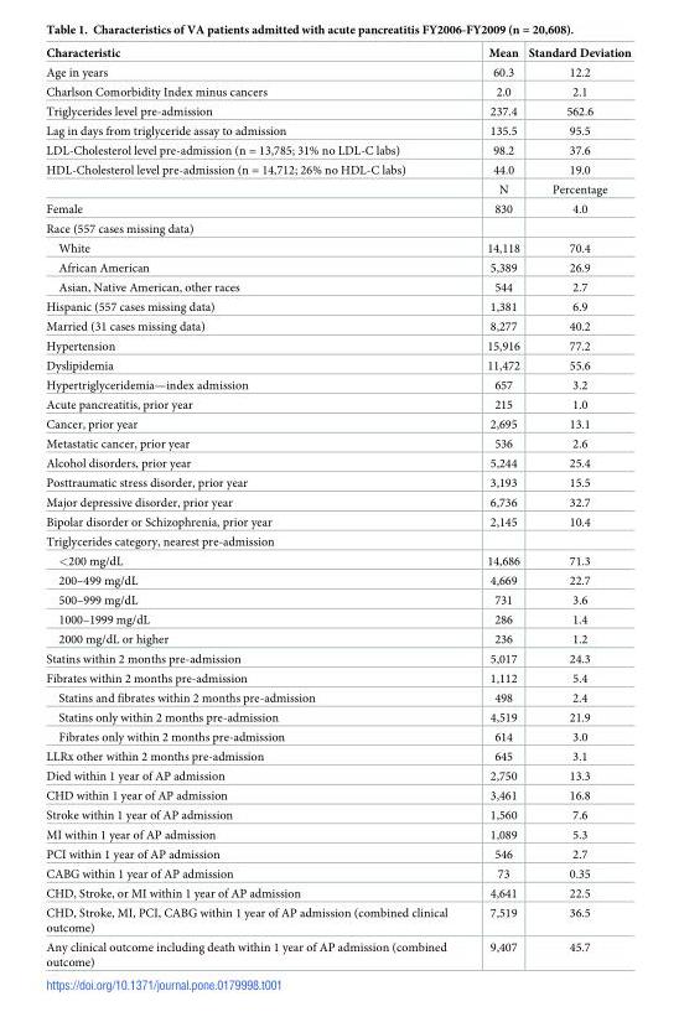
<table><thead><tr><td>Characteristic</td><td>Mean</td><td>Standard Deviation</td></tr></thead><tbody><tr><td>Age in years</td><td>60.3</td><td>12.2</td></tr><tr><td>Charlson Comorbidity Index minus cancers</td><td>2.0</td><td>2.1</td></tr><tr><td>Triglycerides level pre-admission</td><td>237.4</td><td>562.6</td></tr><tr><td>Lag in days from triglyceride assay to admission</td><td>135.5</td><td>95.5</td></tr><tr><td>LDL-Cholesterol level pre-admission (n = 13,785; 31% no LDL-C labs)</td><td>98.2</td><td>37.6</td></tr><tr><td rowspan="2">HDL-Cholesterol level pre-admission (n = 14,712; 26% no HDL-C labs)</td><td>44.0</td><td>19.0</td></tr><tr><td>N</td><td>Percentage</td></tr><tr><td>Female</td><td>830</td><td>4.0</td></tr><tr><td colspan="3">Race (557 cases missing data)</td></tr><tr><td>White</td><td>14,118</td><td>70.4</td></tr><tr><td>African American</td><td>5,389</td><td>26.9</td></tr><tr><td>Asian, Native American, other races</td><td>544</td><td>2.7</td></tr><tr><td>Hispanic (557 cases missing data)</td><td>1,381</td><td>6.9</td></tr><tr><td>Married (31 cases missing data)</td><td>8,277</td><td>40.2</td></tr><tr><td>Hypertension</td><td>15,916</td><td>77.2</td></tr><tr><td>Dyslipidemia</td><td>11,472</td><td>55.6</td></tr><tr><td>Hypertriglyceridemia—index admission</td><td>657</td><td>3.2</td></tr><tr><td>Acute pancreatitis, prior year</td><td>215</td><td>1.0</td></tr><tr><td>Cancer, prior year</td><td>2,695</td><td>13.1</td></tr><tr><td>Metastatic cancer, prior year</td><td>536</td><td>2.6</td></tr><tr><td>Alcohol disorders, prior year</td><td>5,244</td><td>25.4</td></tr><tr><td>Posttraumatic stress disorder, prior year</td><td>3,193</td><td>15.5</td></tr><tr><td>Major depressive disorder, prior year</td><td>6,736</td><td>32.7</td></tr><tr><td>Bipolar disorder or Schizophrenia, prior year</td><td>2,145</td><td>10.4</td></tr><tr><td colspan="3">Triglycerides category, nearest pre-admission</td></tr><tr><td>&lt;200 mg/dL</td><td>14,686</td><td>71.3</td></tr><tr><td>200–499 mg/dL</td><td>4,669</td><td>22.7</td></tr><tr><td>500–999 mg/dL</td><td>731</td><td>3.6</td></tr><tr><td>1000–1999 mg/dL</td><td>286</td><td>1.4</td></tr><tr><td>2000 mg/dL or higher</td><td>236</td><td>1.2</td></tr><tr><td>Statins within 2 months pre-admission</td><td>5,017</td><td>24.3</td></tr><tr><td>Fibrates within 2 months pre-admission</td><td>1,112</td><td>5.4</td></tr><tr><td>Statins and fibrates within 2 months pre-admission</td><td>498</td><td>2.4</td></tr><tr><td>Statins only within 2 months pre-admission</td><td>4,519</td><td>21.9</td></tr><tr><td>Fibrates only within 2 months pre-admission</td><td>614</td><td>3.0</td></tr><tr><td>LLRx other within 2 months pre-admission</td><td>645</td><td>3.1</td></tr><tr><td>Died within 1 year of AP admission</td><td>2,750</td><td>13.3</td></tr><tr><td>CHD within 1 year of AP admission</td><td>3,461</td><td>16.8</td></tr><tr><td>Stroke within 1 year of AP admission</td><td>1,560</td><td>7.6</td></tr><tr><td>MI within 1 year of AP admission</td><td>1,089</td><td>5.3</td></tr><tr><td>PCI within 1 year of AP admission</td><td>546</td><td>2.7</td></tr><tr><td>CABG within 1 year of AP admission</td><td>73</td><td>0.35</td></tr><tr><td>CHD, Stroke, or MI within 1 year of AP admission</td><td>4,641</td><td>22.5</td></tr><tr><td>CHD, Stroke, MI, PCI, CABG within 1 year of AP admission (combined clinical outcome)</td><td>7,519</td><td>36.5</td></tr><tr><td>Any clinical outcome including death within 1 year of AP admission (combined outcome)</td><td>9,407</td><td>45.7</td></tr></tbody></table>